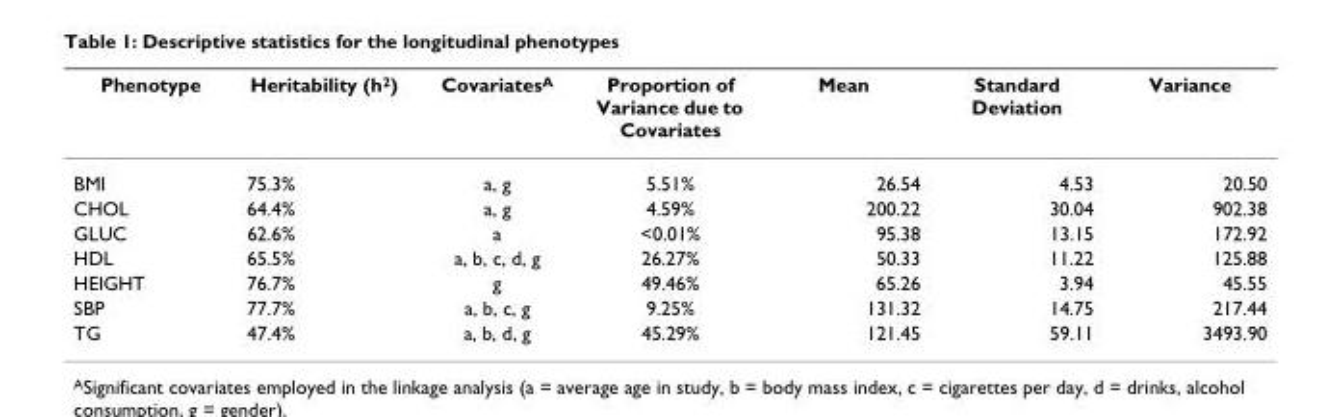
<table><thead><tr><td>Phenotype</td><td>Heritability (h2)</td><td>CovariatesA</td><td>Proportion of Variance due to Covariates</td><td>Mean</td><td>Standard Deviation</td><td>Variance</td></tr></thead><tbody><tr><td>BMI</td><td>75.3%</td><td>a, g</td><td>5.51%</td><td>26.54</td><td>4.53</td><td>20.50</td></tr><tr><td>CHOL</td><td>64.4%</td><td>a, g</td><td>4.59%</td><td>200.22</td><td>30.04</td><td>902.38</td></tr><tr><td>GLUC</td><td>62.6%</td><td>a</td><td>&lt;0.01%</td><td>95.38</td><td>13.15</td><td>172.92</td></tr><tr><td>HDL</td><td>65.5%</td><td>a, b, c, d, g</td><td>26.27%</td><td>50.33</td><td>11.22</td><td>125.88</td></tr><tr><td>HEIGHT</td><td>76.7%</td><td>g</td><td>49.46%</td><td>65.26</td><td>3.94</td><td>45.55</td></tr><tr><td>SBP</td><td>77.7%</td><td>a, b, c, g</td><td>9.25%</td><td>131.32</td><td>14.75</td><td>217.44</td></tr><tr><td>TG</td><td>47.4%</td><td>a, b, d, g</td><td>45.29%</td><td>121.45</td><td>59.11</td><td>3493.90</td></tr></tbody></table>